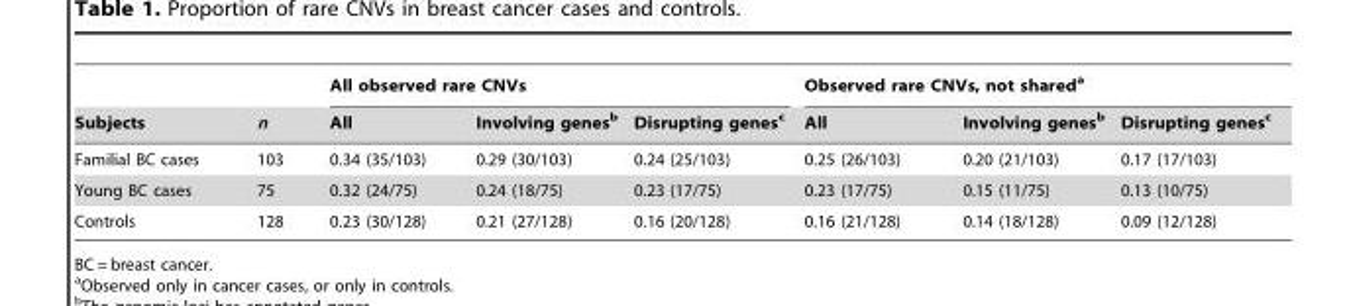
<table><thead><tr><td rowspan="2">Subjects</td><td rowspan="2">n</td><td colspan="3">All observed rare CNVs</td><td colspan="3">Observed rare CNVs, not shared<sup>a</sup></td></tr><tr><td>All</td><td>Involving genes<sup>b</sup></td><td>Disrupting genes<sup>c</sup></td><td>All</td><td>Involving genes<sup>b</sup></td><td>Disrupting genes<sup>c</sup></td></tr></thead><tbody><tr><td>Familial BC cases</td><td>103</td><td>0.34 (35/103)</td><td>0.29 (30/103)</td><td>0.24 (25/103)</td><td>0.25 (26/103)</td><td>0.20 (21/103)</td><td>0.17 (17/103)</td></tr><tr><td>Young BC cases</td><td>75</td><td>0.32 (24/75)</td><td>0.24 (18/75)</td><td>0.23 (17/75)</td><td>0.23 (17/75)</td><td>0.15 (11/75)</td><td>0.13 (10/75)</td></tr><tr><td>Controls</td><td>128</td><td>0.23 (30/128)</td><td>0.21 (27/128)</td><td>0.16 (20/128)</td><td>0.16 (21/128)</td><td>0.14 (18/128)</td><td>0.09 (12/128)</td></tr></tbody></table>